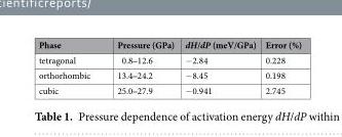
<table><thead><tr><td>Phase</td><td>Pressure (GPa)</td><td>dH/dP (meV/GPa)</td><td>Error (%)</td></tr></thead><tbody><tr><td>tetragonal</td><td>0.8‒12.6</td><td>−2.84</td><td>0.228</td></tr><tr><td>orthorhombic</td><td>13.4‒24.2</td><td>−8.45</td><td>0.198</td></tr><tr><td>cubic</td><td>25.0‒27.9</td><td>−0.941</td><td>2.745</td></tr></tbody></table>